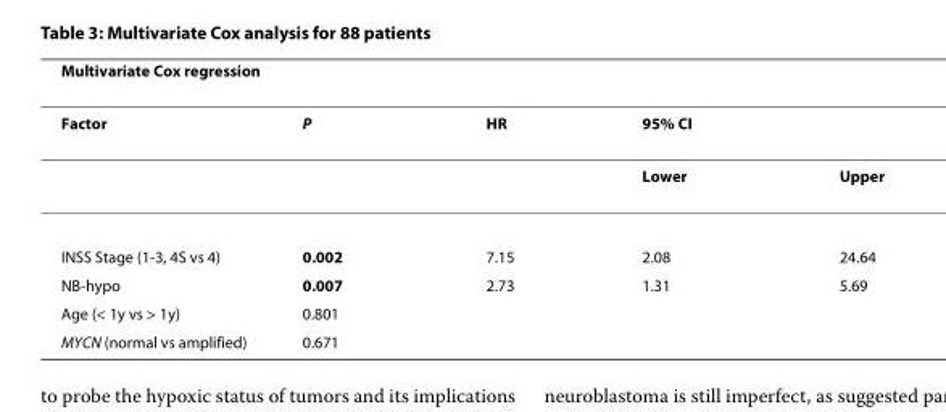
<table><thead><tr><td>Multivariate Cox regression</td><td></td><td></td><td></td><td></td></tr></thead><tbody><tr><td rowspan="2">Factor</td><td>P</td><td>HR</td><td colspan="2">95% CI</td></tr><tr><td></td><td></td><td>Lower</td><td>Upper</td></tr><tr><td>INSS Stage (1-3, 4S vs 4)</td><td>0.002</td><td>7.15</td><td>2.08</td><td>24.64</td></tr><tr><td>NB-hypo</td><td>0.007</td><td>2.73</td><td>1.31</td><td>5.69</td></tr><tr><td>Age (&lt; 1y vs &gt; 1y)</td><td>0.801</td><td></td><td></td><td></td></tr><tr><td>MYCN (normal vs amplified)</td><td>0.671</td><td></td><td></td><td></td></tr></tbody></table>